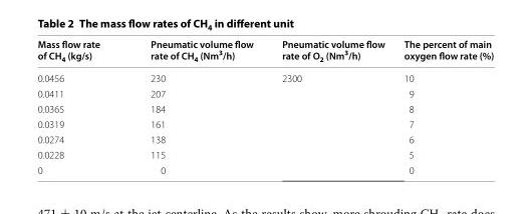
<table><thead><tr><td>Mass flow rate of CH<sub>4</sub> (kg/s)</td><td>Pneumatic volume flow rate of CH<sub>4</sub> (Nm<sup>3</sup>/h)</td><td>Pneumatic volume flow rate of O<sub>2</sub> (Nm<sup>3</sup>/h)</td><td>The percent of main oxygen flow rate (%)</td></tr></thead><tbody><tr><td>0.0456</td><td>230</td><td rowspan="7">2300</td><td>10</td></tr><tr><td>0.0411</td><td>207</td><td>9</td></tr><tr><td>0.0365</td><td>184</td><td>8</td></tr><tr><td>0.0319</td><td>161</td><td>7</td></tr><tr><td>0.0274</td><td>138</td><td>6</td></tr><tr><td>0.0228</td><td>115</td><td>5</td></tr><tr><td>0</td><td>0</td><td>0</td></tr></tbody></table>